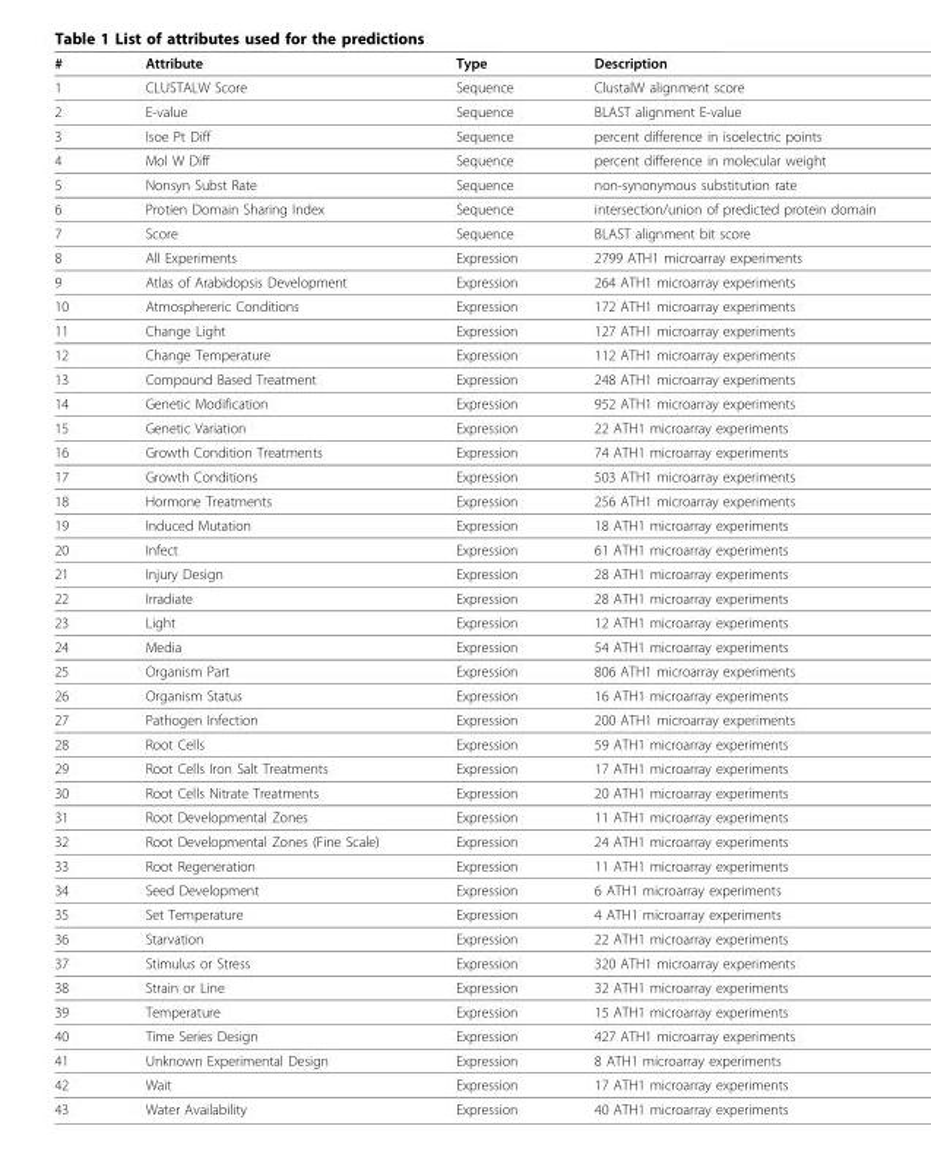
<table><thead><tr><td>#</td><td>Attribute</td><td>Type</td><td>Description</td></tr></thead><tbody><tr><td>1</td><td>CLUSTALW Score</td><td>Sequence</td><td>ClustalW alignment score</td></tr><tr><td>2</td><td>E-value</td><td>Sequence</td><td>BLAST alignment E-value</td></tr><tr><td>3</td><td>Isoe Pt Diff</td><td>Sequence</td><td>percent difference in isoelectric points</td></tr><tr><td>4</td><td>Mol W Diff</td><td>Sequence</td><td>percent difference in molecular weight</td></tr><tr><td>5</td><td>Nonsyn Subst Rate</td><td>Sequence</td><td>non-synonymous substitution rate</td></tr><tr><td>6</td><td>Protien Domain Sharing Index</td><td>Sequence</td><td>intersection/union of predicted protein domain</td></tr><tr><td>7</td><td>Score</td><td>Sequence</td><td>BLAST alignment bit score</td></tr><tr><td>8</td><td>All Experiments</td><td>Expression</td><td>2799 ATH1 microarray experiments</td></tr><tr><td>9</td><td>Atlas of Arabidopsis Development</td><td>Expression</td><td>264 ATH1 microarray experiments</td></tr><tr><td>10</td><td>Atmosphereric Conditions</td><td>Expression</td><td>172 ATH1 microarray experiments</td></tr><tr><td>11</td><td>Change Light</td><td>Expression</td><td>127 ATH1 microarray experiments</td></tr><tr><td>12</td><td>Change Temperature</td><td>Expression</td><td>112 ATH1 microarray experiments</td></tr><tr><td>13</td><td>Compound Based Treatment</td><td>Expression</td><td>248 ATH1 microarray experiments</td></tr><tr><td>14</td><td>Genetic Modification</td><td>Expression</td><td>952 ATH1 microarray experiments</td></tr><tr><td>15</td><td>Genetic Variation</td><td>Expression</td><td>22 ATH1 microarray experiments</td></tr><tr><td>16</td><td>Growth Condition Treatments</td><td>Expression</td><td>74 ATH1 microarray experiments</td></tr><tr><td>17</td><td>Growth Conditions</td><td>Expression</td><td>503 ATH1 microarray experiments</td></tr><tr><td>18</td><td>Hormone Treatments</td><td>Expression</td><td>256 ATH1 microarray experiments</td></tr><tr><td>19</td><td>Induced Mutation</td><td>Expression</td><td>18 ATH1 microarray experiments</td></tr><tr><td>20</td><td>Infect</td><td>Expression</td><td>61 ATH1 microarray experiments</td></tr><tr><td>21</td><td>Injury Design</td><td>Expression</td><td>28 ATH1 microarray experiments</td></tr><tr><td>22</td><td>Irradiate</td><td>Expression</td><td>28 ATH1 microarray experiments</td></tr><tr><td>23</td><td>Light</td><td>Expression</td><td>12 ATH1 microarray experiments</td></tr><tr><td>24</td><td>Media</td><td>Expression</td><td>54 ATH1 microarray experiments</td></tr><tr><td>25</td><td>Organism Part</td><td>Expression</td><td>806 ATH1 microarray experiments</td></tr><tr><td>26</td><td>Organism Status</td><td>Expression</td><td>16 ATH1 microarray experiments</td></tr><tr><td>27</td><td>Pathogen Infection</td><td>Expression</td><td>200 ATH1 microarray experiments</td></tr><tr><td>28</td><td>Root Cells</td><td>Expression</td><td>59 ATH1 microarray experiments</td></tr><tr><td>29</td><td>Root Cells Iron Salt Treatments</td><td>Expression</td><td>17 ATH1 microarray experiments</td></tr><tr><td>30</td><td>Root Cells Nitrate Treatments</td><td>Expression</td><td>20 ATH1 microarray experiments</td></tr><tr><td>31</td><td>Root Developmental Zones</td><td>Expression</td><td>11 ATH1 microarray experiments</td></tr><tr><td>32</td><td>Root Developmental Zones (Fine Scale)</td><td>Expression</td><td>24 ATH1 microarray experiments</td></tr><tr><td>33</td><td>Root Regeneration</td><td>Expression</td><td>11 ATH1 microarray experiments</td></tr><tr><td>34</td><td>Seed Development</td><td>Expression</td><td>6 ATH1 microarray experiments</td></tr><tr><td>35</td><td>Set Temperature</td><td>Expression</td><td>4 ATH1 microarray experiments</td></tr><tr><td>36</td><td>Starvation</td><td>Expression</td><td>22 ATH1 microarray experiments</td></tr><tr><td>37</td><td>Stimulus or Stress</td><td>Expression</td><td>320 ATH1 microarray experiments</td></tr><tr><td>38</td><td>Strain or Line</td><td>Expression</td><td>32 ATH1 microarray experiments</td></tr><tr><td>39</td><td>Temperature</td><td>Expression</td><td>15 ATH1 microarray experiments</td></tr><tr><td>40</td><td>Time Series Design</td><td>Expression</td><td>427 ATH1 microarray experiments</td></tr><tr><td>41</td><td>Unknown Experimental Design</td><td>Expression</td><td>8 ATH1 microarray experiments</td></tr><tr><td>42</td><td>Wait</td><td>Expression</td><td>17 ATH1 microarray experiments</td></tr><tr><td>43</td><td>Water Availability</td><td>Expression</td><td>40 ATH1 microarray experiments</td></tr></tbody></table>